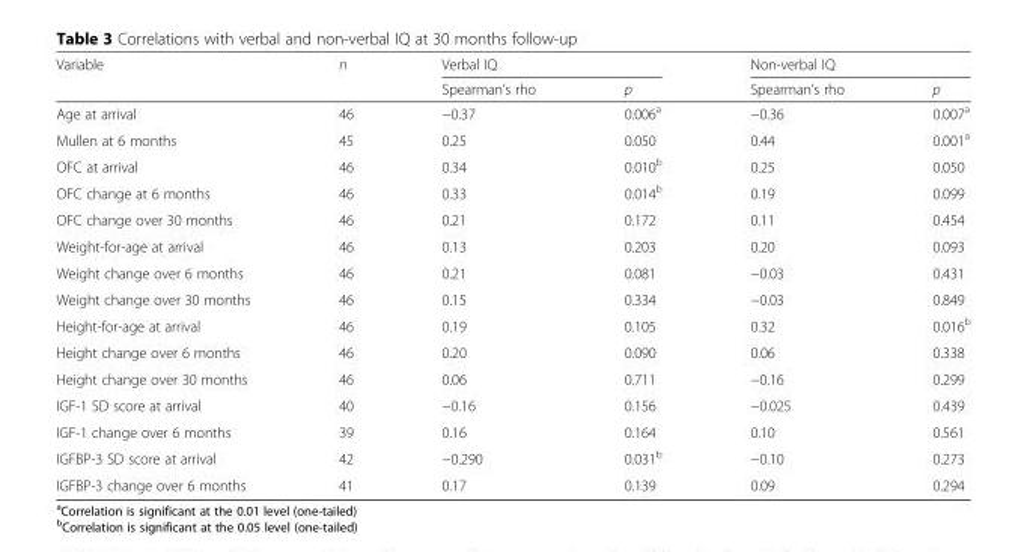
<table><thead><tr><td rowspan="2">Variable</td><td rowspan="2">n</td><td colspan="2">Verbal IQ</td><td colspan="2">Non-verbal IQ</td></tr><tr><td>Spearman’s rho</td><td>p</td><td>Spearman’s rho</td><td>p</td></tr></thead><tbody><tr><td>Age at arrival</td><td>46</td><td>−0.37</td><td>0.006<sup>a</sup></td><td>−0.36</td><td>0.007<sup>a</sup></td></tr><tr><td>Mullen at 6 months</td><td>45</td><td>0.25</td><td>0.050</td><td>0.44</td><td>0.001<sup>a</sup></td></tr><tr><td>OFC at arrival</td><td>46</td><td>0.34</td><td>0.010<sup>b</sup></td><td>0.25</td><td>0.050</td></tr><tr><td>OFC change at 6 months</td><td>46</td><td>0.33</td><td>0.014<sup>b</sup></td><td>0.19</td><td>0.099</td></tr><tr><td>OFC change over 30 months</td><td>46</td><td>0.21</td><td>0.172</td><td>0.11</td><td>0.454</td></tr><tr><td>Weight-for-age at arrival</td><td>46</td><td>0.13</td><td>0.203</td><td>0.20</td><td>0.093</td></tr><tr><td>Weight change over 6 months</td><td>46</td><td>0.21</td><td>0.081</td><td>−0.03</td><td>0.431</td></tr><tr><td>Weight change over 30 months</td><td>46</td><td>0.15</td><td>0.334</td><td>−0.03</td><td>0.849</td></tr><tr><td>Height-for-age at arrival</td><td>46</td><td>0.19</td><td>0.105</td><td>0.32</td><td>0.016<sup>b</sup></td></tr><tr><td>Height change over 6 months</td><td>46</td><td>0.20</td><td>0.090</td><td>0.06</td><td>0.338</td></tr><tr><td>Height change over 30 months</td><td>46</td><td>0.06</td><td>0.711</td><td>−0.16</td><td>0.299</td></tr><tr><td>IGF-1 SD score at arrival</td><td>40</td><td>−0.16</td><td>0.156</td><td>−0.025</td><td>0.439</td></tr><tr><td>IGF-1 change over 6 months</td><td>39</td><td>0.16</td><td>0.164</td><td>0.10</td><td>0.561</td></tr><tr><td>IGFBP-3 SD score at arrival</td><td>42</td><td>−0.290</td><td>0.031<sup>b</sup></td><td>−0.10</td><td>0.273</td></tr><tr><td>IGFBP-3 change over 6 months</td><td>41</td><td>0.17</td><td>0.139</td><td>0.09</td><td>0.294</td></tr></tbody></table>